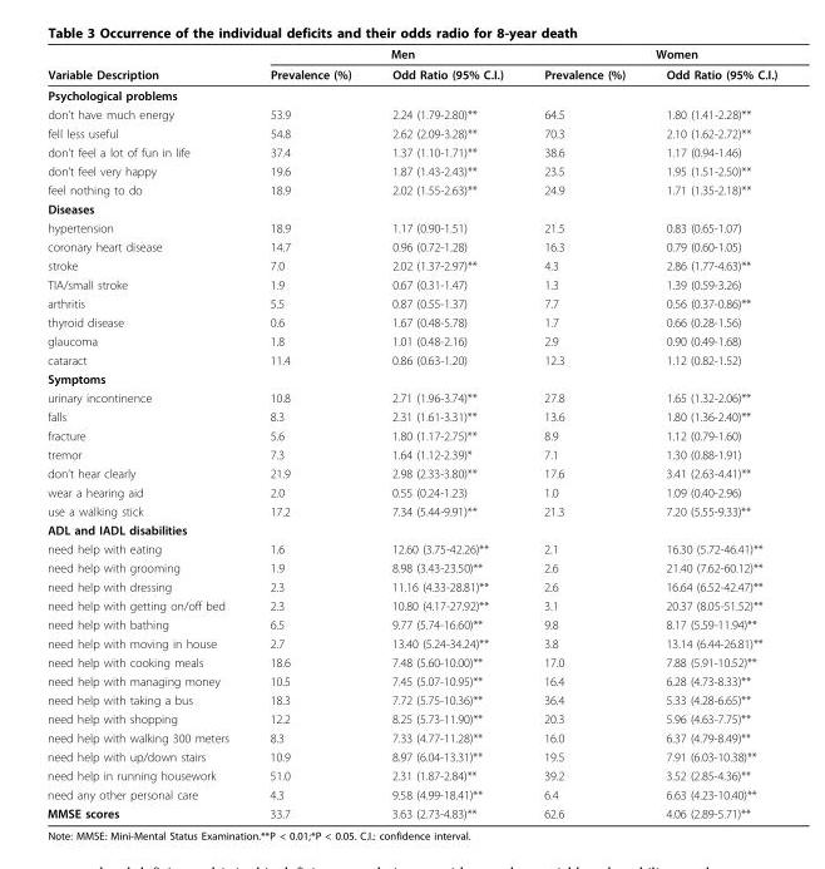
<table><thead><tr><td rowspan="2">Variable Description</td><td colspan="2">Men</td><td colspan="2">Women</td></tr><tr><td>Prevalence (%)</td><td>Odd Ratio (95% C.I.)</td><td>Prevalence (%)</td><td>Odd Ratio (95% C.I.)</td></tr></thead><tbody><tr><td colspan="5">Psychological problems</td></tr><tr><td>don’t have much energy</td><td>53.9</td><td>2.24 (1.79-2.80)**</td><td>64.5</td><td>1.80 (1.41-2.28)**</td></tr><tr><td>fell less useful</td><td>54.8</td><td>2.62 (2.09-3.28)**</td><td>70.3</td><td>2.10 (1.62-2.72)**</td></tr><tr><td>don’t feel a lot of fun in life</td><td>37.4</td><td>1.37 (1.10-1.71)**</td><td>38.6</td><td>1.17 (0.94-1.46)</td></tr><tr><td>don’t feel very happy</td><td>19.6</td><td>1.87 (1.43-2.43)**</td><td>23.5</td><td>1.95 (1.51-2.50)**</td></tr><tr><td>feel nothing to do</td><td>18.9</td><td>2.02 (1.55-2.63)**</td><td>24.9</td><td>1.71 (1.35-2.18)**</td></tr><tr><td colspan="5">Diseases</td></tr><tr><td>hypertension</td><td>18.9</td><td>1.17 (0.90-1.51)</td><td>21.5</td><td>0.83 (0.65-1.07)</td></tr><tr><td>coronary heart disease</td><td>14.7</td><td>0.96 (0.72-1.28)</td><td>16.3</td><td>0.79 (0.60-1.05)</td></tr><tr><td>stroke</td><td>7.0</td><td>2.02 (1.37-2.97)**</td><td>4.3</td><td>2.86 (1.77-4.63)**</td></tr><tr><td>TIA/small stroke</td><td>1.9</td><td>0.67 (0.31-1.47)</td><td>1.3</td><td>1.39 (0.59-3.26)</td></tr><tr><td>arthritis</td><td>5.5</td><td>0.87 (0.55-1.37)</td><td>7.7</td><td>0.56 (0.37-0.86)**</td></tr><tr><td>thyroid disease</td><td>0.6</td><td>1.67 (0.48-5.78)</td><td>1.7</td><td>0.66 (0.28-1.56)</td></tr><tr><td>glaucoma</td><td>1.8</td><td>1.01 (0.48-2.16)</td><td>2.9</td><td>0.90 (0.49-1.68)</td></tr><tr><td>cataract</td><td>11.4</td><td>0.86 (0.63-1.20)</td><td>12.3</td><td>1.12 (0.82-1.52)</td></tr><tr><td colspan="5">Symptoms</td></tr><tr><td>urinary incontinence</td><td>10.8</td><td>2.71 (1.96-3.74)**</td><td>27.8</td><td>1.65 (1.32-2.06)**</td></tr><tr><td>falls</td><td>8.3</td><td>2.31 (1.61-3.31)**</td><td>13.6</td><td>1.80 (1.36-2.40)**</td></tr><tr><td>fracture</td><td>5.6</td><td>1.80 (1.17-2.75)**</td><td>8.9</td><td>1.12 (0.79-1.60)</td></tr><tr><td>tremor</td><td>7.3</td><td>1.64 (1.12-2.39)*</td><td>7.1</td><td>1.30 (0.88-1.91)</td></tr><tr><td>don’t hear clearly</td><td>21.9</td><td>2.98 (2.33-3.80)**</td><td>17.6</td><td>3.41 (2.63-4.41)**</td></tr><tr><td>wear a hearing aid</td><td>2.0</td><td>0.55 (0.24-1.23)</td><td>1.0</td><td>1.09 (0.40-2.96)</td></tr><tr><td>use a walking stick</td><td>17.2</td><td>7.34 (5.44-9.91)**</td><td>21.3</td><td>7.20 (5.55-9.33)**</td></tr><tr><td colspan="5">ADL and IADL disabilities</td></tr><tr><td>need help with eating</td><td>1.6</td><td>12.60 (3.75-42.26)**</td><td>2.1</td><td>16.30 (5.72-46.41)**</td></tr><tr><td>need help with grooming</td><td>1.9</td><td>8.98 (3.43-23.50)**</td><td>2.6</td><td>21.40 (7.62-60.12)**</td></tr><tr><td>need help with dressing</td><td>2.3</td><td>11.16 (4.33-28.81)**</td><td>2.6</td><td>16.64 (6.52-42.47)**</td></tr><tr><td>need help with getting on/off bed</td><td>2.3</td><td>10.80 (4.17-27.92)**</td><td>3.1</td><td>20.37 (8.05-51.52)**</td></tr><tr><td>need help with bathing</td><td>6.5</td><td>9.77 (5.74-16.60)**</td><td>9.8</td><td>8.17 (5.59-11.94)**</td></tr><tr><td>need help with moving in house</td><td>2.7</td><td>13.40 (5.24-34.24)**</td><td>3.8</td><td>13.14 (6.44-26.81)**</td></tr><tr><td>need help with cooking meals</td><td>18.6</td><td>7.48 (5.60-10.00)**</td><td>17.0</td><td>7.88 (5.91-10.52)**</td></tr><tr><td>need help with managing money</td><td>10.5</td><td>7.45 (5.07-10.95)**</td><td>16.4</td><td>6.28 (4.73-8.33)**</td></tr><tr><td>need help with taking a bus</td><td>18.3</td><td>7.72 (5.75-10.36)**</td><td>36.4</td><td>5.33 (4.28-6.65)**</td></tr><tr><td>need help with shopping</td><td>12.2</td><td>8.25 (5.73-11.90)**</td><td>20.3</td><td>5.96 (4.63-7.75)**</td></tr><tr><td>need help with walking 300 meters</td><td>8.3</td><td>7.33 (4.77-11.28)**</td><td>16.0</td><td>6.37 (4.79-8.49)**</td></tr><tr><td>need help with up/down stairs</td><td>10.9</td><td>8.97 (6.04-13.31)**</td><td>19.5</td><td>7.91 (6.03-10.38)**</td></tr><tr><td>need help in running housework</td><td>51.0</td><td>2.31 (1.87-2.84)**</td><td>39.2</td><td>3.52 (2.85-4.36)**</td></tr><tr><td>need any other personal care</td><td>4.3</td><td>9.58 (4.99-18.41)**</td><td>6.4</td><td>6.63 (4.23-10.40)**</td></tr><tr><td>MMSE scores</td><td>33.7</td><td>3.63 (2.73-4.83)**</td><td>62.6</td><td>4.06 (2.89-5.71)**</td></tr></tbody></table>